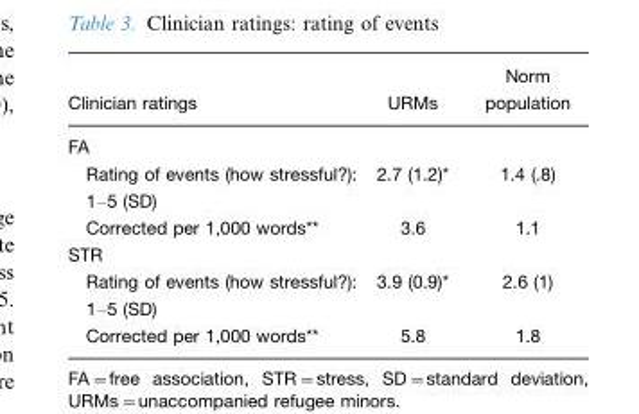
<table><thead><tr><td>Clinician ratings</td><td>URMs</td><td>Norm population</td></tr></thead><tbody><tr><td colspan="3">FA</td></tr><tr><td>Rating of events (how stressful?): 1–5 (SD)</td><td>2.7 (1.2)*</td><td>1.4 (.8)</td></tr><tr><td>Corrected per 1,000 words**</td><td>3.6</td><td>1.1</td></tr><tr><td colspan="3">STR</td></tr><tr><td>Rating of events (how stressful?): 1–5 (SD)</td><td>3.9 (0.9)*</td><td>2.6 (1)</td></tr><tr><td>Corrected per 1,000 words**</td><td>5.8</td><td>1.8</td></tr></tbody></table>